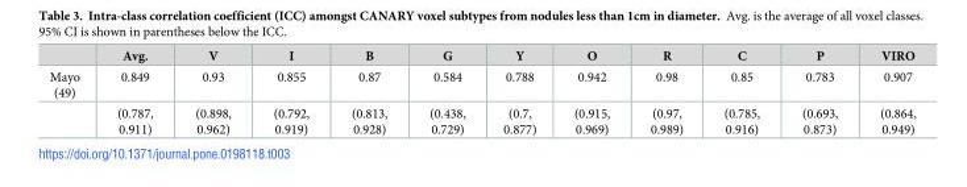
<table><thead><tr><td></td><td>Avg.</td><td>V</td><td>I</td><td>B</td><td>G</td><td>Y</td><td>O</td><td>R</td><td>C</td><td>P</td><td>VIRO</td></tr></thead><tbody><tr><td rowspan="2">Mayo (49)</td><td>0.849</td><td>0.93</td><td>0.855</td><td>0.87</td><td>0.584</td><td>0.788</td><td>0.942</td><td>0.98</td><td>0.85</td><td>0.783</td><td>0.907</td></tr><tr><td>(0.787, 0.911)</td><td>(0.898, 0.962)</td><td>(0.792, 0.919)</td><td>(0.813, 0.928)</td><td>(0.438, 0.729)</td><td>(0.7, 0.877)</td><td>(0.915, 0.969)</td><td>(0.97, 0.989)</td><td>(0.785, 0.916)</td><td>(0.693, 0.873)</td><td>(0.864, 0.949)</td></tr></tbody></table>